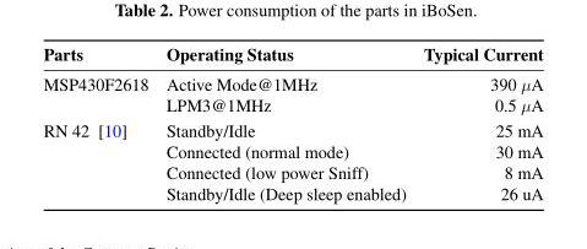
<table><thead><tr><td>Parts</td><td>Operating Status</td><td>Typical Current</td></tr></thead><tbody><tr><td rowspan="2">MSP430F2618</td><td>Active Mode@1MHz</td><td>390 µA</td></tr><tr><td>LPM3@1MHz</td><td>0.5 µA</td></tr><tr><td rowspan="4">RN 42 [10]</td><td>Standby/Idle</td><td>25 mA</td></tr><tr><td>Connected (normal mode)</td><td>30 mA</td></tr><tr><td>Connected (low power Sniff)</td><td>8 mA</td></tr><tr><td>Standby/Idle (Deep sleep enabled)</td><td>26 uA</td></tr></tbody></table>